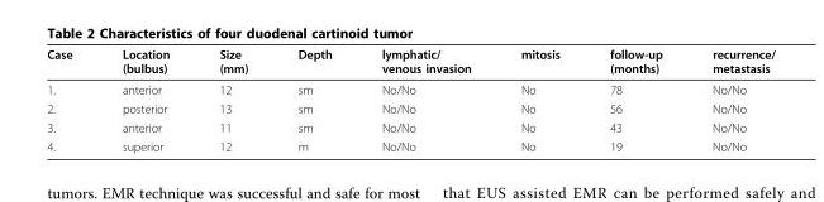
<table><thead><tr><td>Case</td><td>Location (bulbus)</td><td>Size (mm)</td><td>Depth</td><td>lymphatic/ venous invasion</td><td>mitosis</td><td>follow-up (months)</td><td>recurrence/ metastasis</td></tr></thead><tbody><tr><td>1.</td><td>anterior</td><td>12</td><td>sm</td><td>No/No</td><td>No</td><td>78</td><td>No/No</td></tr><tr><td>2.</td><td>posterior</td><td>13</td><td>sm</td><td>No/No</td><td>No</td><td>56</td><td>No/No</td></tr><tr><td>3.</td><td>anterior</td><td>11</td><td>sm</td><td>No/No</td><td>No</td><td>43</td><td>No/No</td></tr><tr><td>4.</td><td>superior</td><td>12</td><td>m</td><td>No/No</td><td>No</td><td>19</td><td>No/No</td></tr></tbody></table>